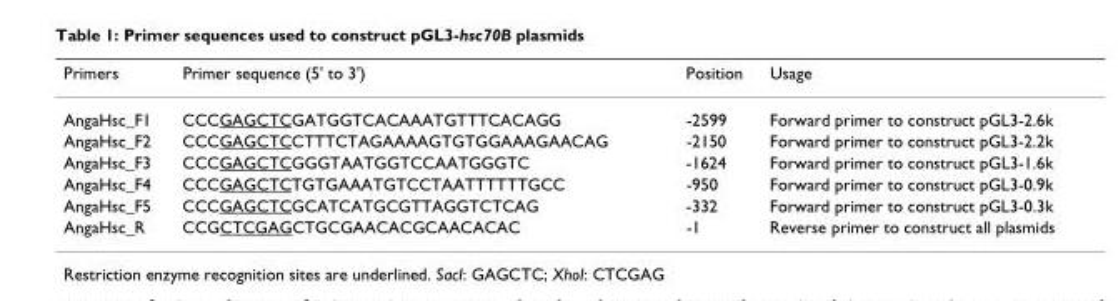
<table><thead><tr><td>Primers</td><td>Primer sequence (5&#x27; to 3&#x27;)</td><td>Position</td><td>Usage</td></tr></thead><tbody><tr><td>AngaHsc_F1</td><td>CCCGAGCTCGATGGTCACAAATGTTTCACAGG</td><td>-2599</td><td>Forward primer to construct pGL3-2.6k</td></tr><tr><td>AngaHsc_F2</td><td>CCCGAGCTCCTTTCTAGAAAAGTGTGGAAAGAACAG</td><td>-2150</td><td>Forward primer to construct pGL3-2.2k</td></tr><tr><td>AngaHsc_F3</td><td>CCCGAGCTCGGGTAATGGTCCAATGGGTC</td><td>-1624</td><td>Forward primer to construct pGL3-1.6k</td></tr><tr><td>AngaHsc_F4</td><td>CCCGAGCTCTGTGAAATGTCCTAATTTTTTGCC</td><td>-950</td><td>Forward primer to construct pGL3-0.9k</td></tr><tr><td>AngaHsc_F5</td><td>CCCGAGCTCGCATCATGCGTTAGGTCTCAG</td><td>-332</td><td>Forward primer to construct pGL3-0.3k</td></tr><tr><td>AngaHsc_R</td><td>CCGCTCGAGCTGCGAACACGCAACACAC</td><td>-1</td><td>Reverse primer to construct all plasmids</td></tr></tbody></table>